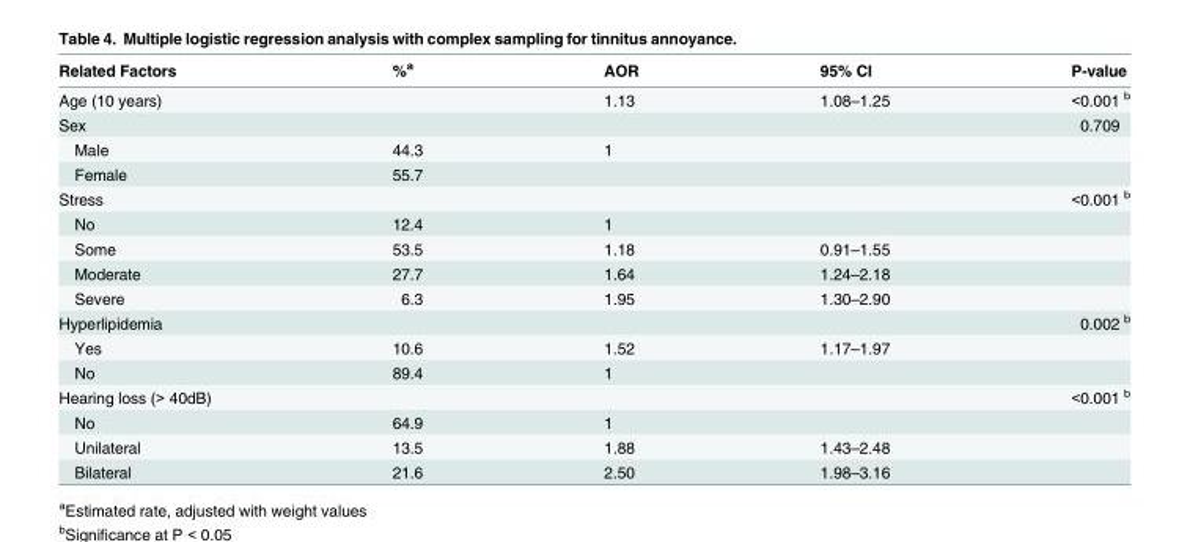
<table><thead><tr><td>Related Factors</td><td>%<sup>a</sup></td><td>AOR</td><td>95% CI</td><td>P-value</td></tr></thead><tbody><tr><td>Age (10 years)</td><td></td><td>1.13</td><td>1.08–1.25</td><td>&lt;0.001 <sup>b</sup></td></tr><tr><td>Sex</td><td></td><td></td><td></td><td>0.709</td></tr><tr><td>Male</td><td>44.3</td><td>1</td><td></td><td></td></tr><tr><td>Female</td><td>55.7</td><td></td><td></td><td></td></tr><tr><td>Stress</td><td></td><td></td><td></td><td>&lt;0.001 <sup>b</sup></td></tr><tr><td>No</td><td>12.4</td><td>1</td><td></td><td></td></tr><tr><td>Some</td><td>53.5</td><td>1.18</td><td>0.91–1.55</td><td></td></tr><tr><td>Moderate</td><td>27.7</td><td>1.64</td><td>1.24–2.18</td><td></td></tr><tr><td>Severe</td><td>6.3</td><td>1.95</td><td>1.30–2.90</td><td></td></tr><tr><td>Hyperlipidemia</td><td></td><td></td><td></td><td>0.002 <sup>b</sup></td></tr><tr><td>Yes</td><td>10.6</td><td>1.52</td><td>1.17–1.97</td><td></td></tr><tr><td>No</td><td>89.4</td><td>1</td><td></td><td></td></tr><tr><td>Hearing loss (&gt; 40dB)</td><td></td><td></td><td></td><td>&lt;0.001 <sup>b</sup></td></tr><tr><td>No</td><td>64.9</td><td>1</td><td></td><td></td></tr><tr><td>Unilateral</td><td>13.5</td><td>1.88</td><td>1.43–2.48</td><td></td></tr><tr><td>Bilateral</td><td>21.6</td><td>2.50</td><td>1.98–3.16</td><td></td></tr></tbody></table>